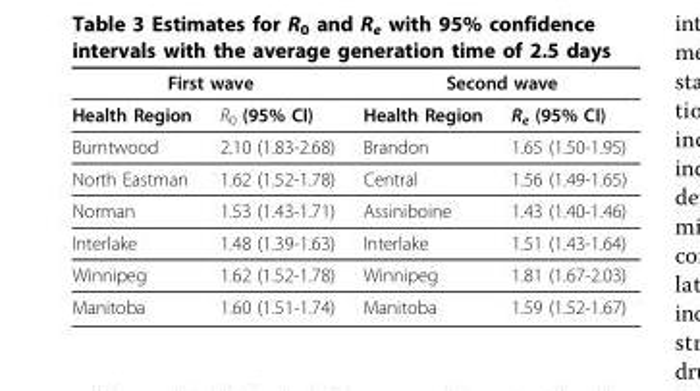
<table><thead><tr><td colspan="2">First wave</td><td colspan="2">Second wave</td></tr><tr><td>Health Region</td><td>R<sub>0</sub> (95% CI)</td><td>Health Region</td><td>R<sub>e</sub> (95% CI)</td></tr></thead><tbody><tr><td>Burntwood</td><td>2.10 (1.83-2.68)</td><td>Brandon</td><td>1.65 (1.50-1.95)</td></tr><tr><td>North Eastman</td><td>1.62 (1.52-1.78)</td><td>Central</td><td>1.56 (1.49-1.65)</td></tr><tr><td>Norman</td><td>1.53 (1.43-1.71)</td><td>Assiniboine</td><td>1.43 (1.40-1.46)</td></tr><tr><td>Interlake</td><td>1.48 (1.39-1.63)</td><td>Interlake</td><td>1.51 (1.43-1.64)</td></tr><tr><td>Winnipeg</td><td>1.62 (1.52-1.78)</td><td>Winnipeg</td><td>1.81 (1.67-2.03)</td></tr><tr><td>Manitoba</td><td>1.60 (1.51-1.74)</td><td>Manitoba</td><td>1.59 (1.52-1.67)</td></tr></tbody></table>